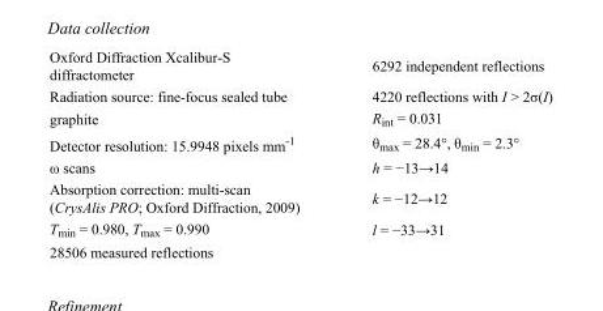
<table><tbody><tr><td>Oxford Diffraction Xcalibur-S diffractometer</td><td>6292 independent reflections</td></tr><tr><td>Radiation source: fine-focus sealed tube</td><td>4220 reflections with I &gt; 2σ(I)</td></tr><tr><td>graphite</td><td>R<sub>int</sub> = 0.031</td></tr><tr><td>Detector resolution: 15.9948 pixels mm<sup>-1</sup></td><td>θ<sub>max</sub> = 28.4°, θ<sub>min</sub> = 2.3°</td></tr><tr><td>ω scans</td><td>h = −13→14</td></tr><tr><td>Absorption correction: multi-scan (CrysAlis PRO; Oxford Diffraction, 2009)</td><td>k = −12→12</td></tr><tr><td>T<sub>min</sub> = 0.980, T<sub>max</sub> = 0.990</td><td>l = −33→31</td></tr><tr><td>28506 measured reflections</td><td></td></tr></tbody></table>